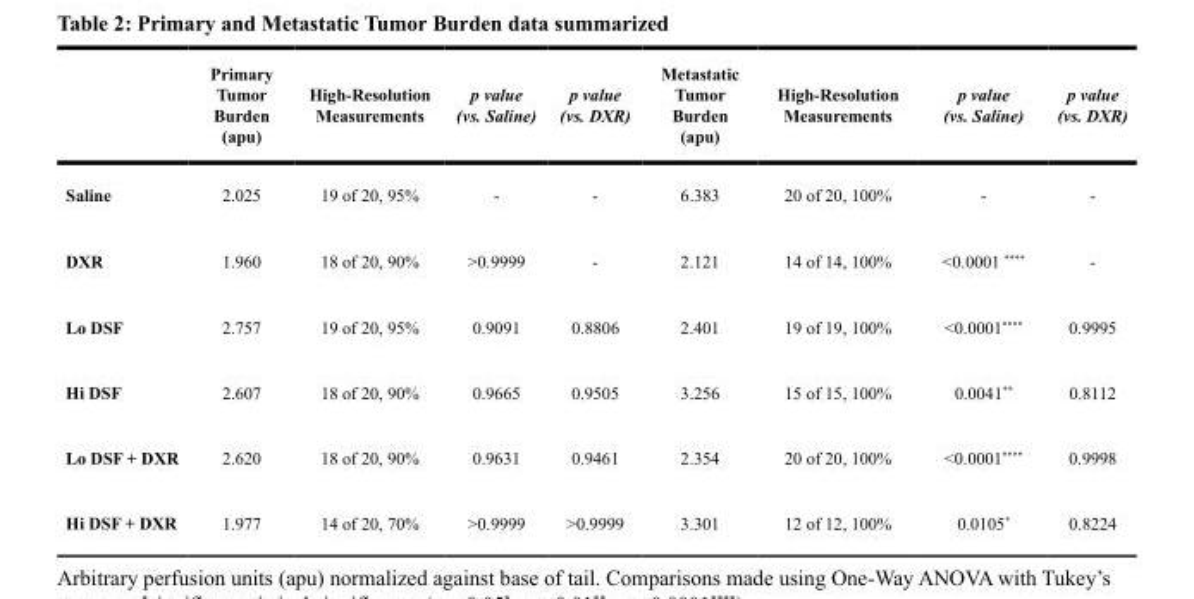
<table><thead><tr><td></td><td>Primary Tumor Burden (apu)</td><td>High-Resolution Measurements</td><td>p value (vs. Saline)</td><td>p value (vs. DXR)</td><td>Metastatic Tumor Burden (apu)</td><td>High-Resolution Measurements</td><td>p value (vs. Saline)</td><td>p value (vs. DXR)</td></tr></thead><tbody><tr><td>Saline</td><td>2.025</td><td>19 of 20, 95%</td><td>-</td><td>-</td><td>6.383</td><td>20 of 20, 100%</td><td>-</td><td>-</td></tr><tr><td>DXR</td><td>1.960</td><td>18 of 20, 90%</td><td>&gt;0.9999</td><td>-</td><td>2.121</td><td>14 of 14, 100%</td><td>&lt;0.0001 ****</td><td>-</td></tr><tr><td>Lo DSF</td><td>2.757</td><td>19 of 20, 95%</td><td>0.9091</td><td>0.8806</td><td>2.401</td><td>19 of 19, 100%</td><td>&lt;0.0001****</td><td>0.9995</td></tr><tr><td>Hi DSF</td><td>2.607</td><td>18 of 20, 90%</td><td>0.9665</td><td>0.9505</td><td>3.256</td><td>15 of 15, 100%</td><td>0.0041**</td><td>0.8112</td></tr><tr><td>Lo DSF + DXR</td><td>2.620</td><td>18 of 20, 90%</td><td>0.9631</td><td>0.9461</td><td>2.354</td><td>20 of 20, 100%</td><td>&lt;0.0001****</td><td>0.9998</td></tr><tr><td>Hi DSF + DXR</td><td>1.977</td><td>14 of 20, 70%</td><td>&gt;0.9999</td><td>&gt;0.9999</td><td>3.301</td><td>12 of 12, 100%</td><td>0.0105*</td><td>0.8224</td></tr></tbody></table>